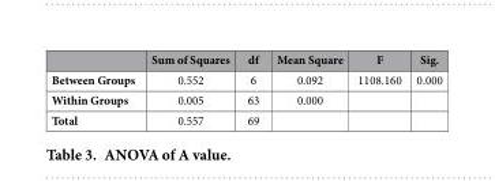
<table><thead><tr><td></td><td>Sum of Squares</td><td>df</td><td>Mean Square</td><td>F</td><td>Sig.</td></tr></thead><tbody><tr><td>Between Groups</td><td>0.552</td><td>6</td><td>0.092</td><td>1108.160</td><td>0.000</td></tr><tr><td>Within Groups</td><td>0.005</td><td>63</td><td>0.000</td><td></td><td></td></tr><tr><td>Total</td><td>0.557</td><td>69</td><td></td><td></td><td></td></tr></tbody></table>